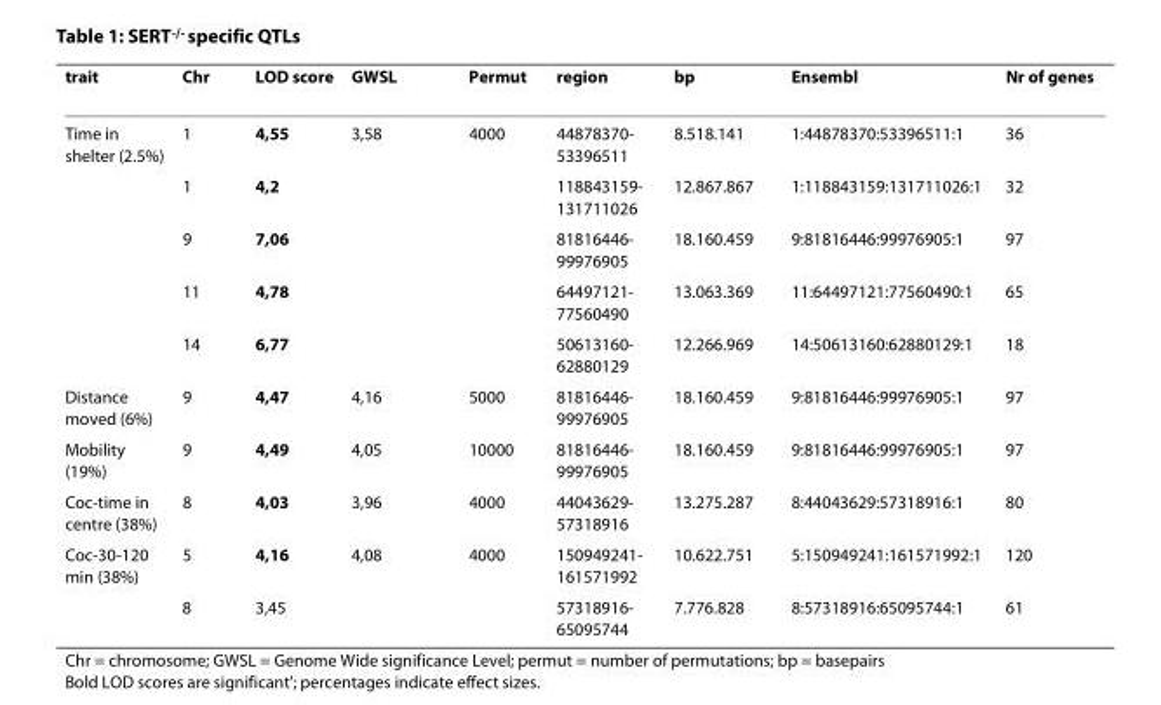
<table><thead><tr><td>trait</td><td>Chr</td><td>LOD score</td><td>GWSL</td><td>Permut</td><td>region</td><td>bp</td><td>Ensembl</td><td>Nr of genes</td></tr></thead><tbody><tr><td rowspan="5">Time in shelter (2.5%)</td><td>1</td><td>4,55</td><td>3,58</td><td>4000</td><td>44878370- 53396511</td><td>8.518.141</td><td>1:44878370:53396511:1</td><td>36</td></tr><tr><td>1</td><td>4,2</td><td></td><td></td><td>118843159- 131711026</td><td>12.867.867</td><td>1:118843159:131711026:1</td><td>32</td></tr><tr><td>9</td><td>7,06</td><td></td><td></td><td>81816446- 99976905</td><td>18.160.459</td><td>9:81816446:99976905:1</td><td>97</td></tr><tr><td>11</td><td>4,78</td><td></td><td></td><td>64497121- 77560490</td><td>13.063.369</td><td>11:64497121:77560490:1</td><td>65</td></tr><tr><td>14</td><td>6,77</td><td></td><td></td><td>50613160- 62880129</td><td>12.266.969</td><td>14:50613160:62880129:1</td><td>18</td></tr><tr><td>Distance moved (6%)</td><td>9</td><td>4,47</td><td>4,16</td><td>5000</td><td>81816446- 99976905</td><td>18.160.459</td><td>9:81816446:99976905:1</td><td>97</td></tr><tr><td>Mobility (19%)</td><td>9</td><td>4,49</td><td>4,05</td><td>10000</td><td>81816446- 99976905</td><td>18.160.459</td><td>9:81816446:99976905:1</td><td>97</td></tr><tr><td>Coc-time in centre (38%)</td><td>8</td><td>4,03</td><td>3,96</td><td>4000</td><td>44043629- 57318916</td><td>13.275.287</td><td>8:44043629:57318916:1</td><td>80</td></tr><tr><td rowspan="2">Coc-30-120 min (38%)</td><td>5</td><td>4,16</td><td>4,08</td><td>4000</td><td>150949241- 161571992</td><td>10.622.751</td><td>5:150949241:161571992:1</td><td>120</td></tr><tr><td>8</td><td>3,45</td><td></td><td></td><td>57318916- 65095744</td><td>7.776.828</td><td>8:57318916:65095744:1</td><td>61</td></tr></tbody></table>